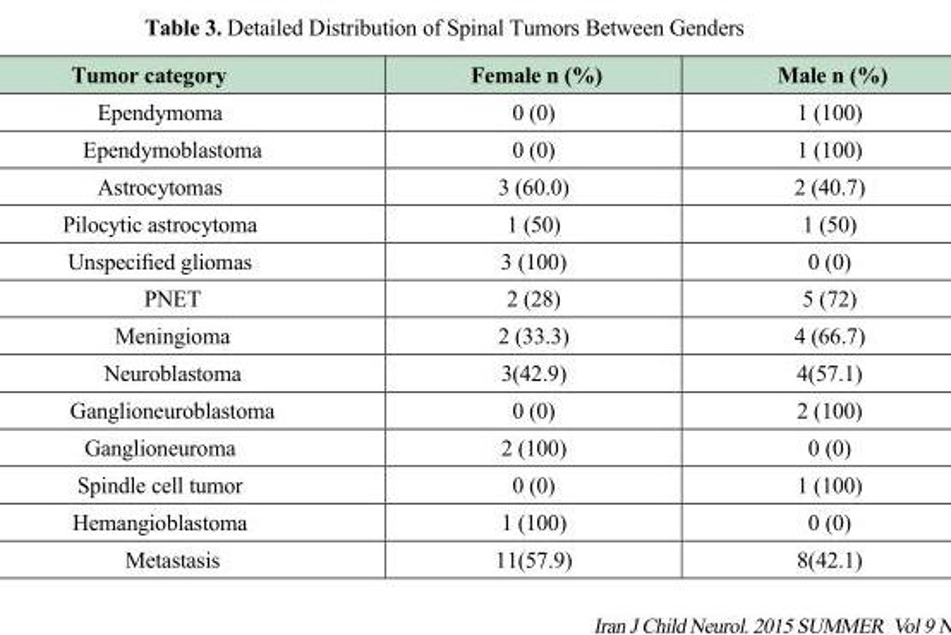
<table><thead><tr><td>Tumor category</td><td>Female n (%)</td><td>Male n (%)</td></tr></thead><tbody><tr><td>Ependymoma</td><td>0 (0)</td><td>1 (100)</td></tr><tr><td>Ependymoblastoma</td><td>0 (0)</td><td>1 (100)</td></tr><tr><td>Astrocytomas</td><td>3 (60.0)</td><td>2 (40.7)</td></tr><tr><td>Pilocytic astrocytoma</td><td>1 (50)</td><td>1 (50)</td></tr><tr><td>Unspecified gliomas</td><td>3 (100)</td><td>0 (0)</td></tr><tr><td>PNET</td><td>2 (28)</td><td>5 (72)</td></tr><tr><td>Meningioma</td><td>2 (33.3)</td><td>4 (66.7)</td></tr><tr><td>Neuroblastoma</td><td>3(42.9)</td><td>4(57.1)</td></tr><tr><td>Ganglioneuroblastoma</td><td>0 (0)</td><td>2 (100)</td></tr><tr><td>Ganglioneuroma</td><td>2 (100)</td><td>0 (0)</td></tr><tr><td>Spindle cell tumor</td><td>0 (0)</td><td>1 (100)</td></tr><tr><td>Hemangioblastoma</td><td>1 (100)</td><td>0 (0)</td></tr><tr><td>Metastasis</td><td>11(57.9)</td><td>8(42.1)</td></tr></tbody></table>